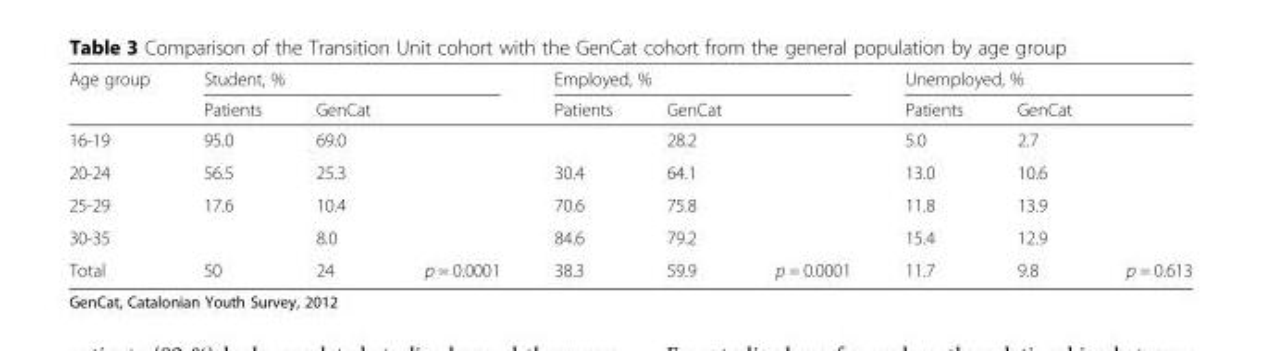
<table><thead><tr><td rowspan="2">Age group</td><td colspan="3">Student, %</td><td colspan="3">Employed, %</td><td colspan="3">Unemployed, %</td></tr><tr><td>Patients</td><td>GenCat</td><td></td><td>Patients</td><td>GenCat</td><td></td><td>Patients</td><td>GenCat</td><td></td></tr></thead><tbody><tr><td>16-19</td><td>95.0</td><td>69.0</td><td></td><td></td><td>28.2</td><td></td><td>5.0</td><td>2.7</td><td></td></tr><tr><td>20-24</td><td>56.5</td><td>25.3</td><td></td><td>30.4</td><td>64.1</td><td></td><td>13.0</td><td>10.6</td><td></td></tr><tr><td>25-29</td><td>17.6</td><td>10.4</td><td></td><td>70.6</td><td>75.8</td><td></td><td>11.8</td><td>13.9</td><td></td></tr><tr><td>30-35</td><td></td><td>8.0</td><td></td><td>84.6</td><td>79.2</td><td></td><td>15.4</td><td>12.9</td><td></td></tr><tr><td>Total</td><td>50</td><td>24</td><td>p = 0.0001</td><td>38.3</td><td>59.9</td><td>p = 0.0001</td><td>11.7</td><td>9.8</td><td>p = 0.613</td></tr></tbody></table>